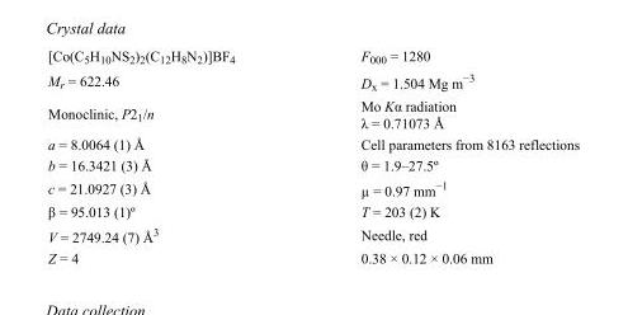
<table><tbody><tr><td>[Co(C<sub>5</sub>H<sub>10</sub>NS<sub>2</sub>)<sub>2</sub>(C<sub>12</sub>H<sub>8</sub>N<sub>2</sub>)]BF<sub>4</sub></td><td>F<sub>000</sub> = 1280</td></tr><tr><td>M<sub>r</sub> = 622.46</td><td>D<sub>x</sub> = 1.504 Mg m<sup>−3</sup></td></tr><tr><td>Monoclinic, P2<sub>1</sub>/n</td><td>Mo Kα radiation λ = 0.71073 Å</td></tr><tr><td>a = 8.0064 (1) Å</td><td>Cell parameters from 8163 reflections</td></tr><tr><td>b = 16.3421 (3) Å</td><td>θ = 1.9–27.5º</td></tr><tr><td>c = 21.0927 (3) Å</td><td>µ = 0.97 mm<sup>−1</sup></td></tr><tr><td>β = 95.013 (1)º</td><td>T = 203 (2) K</td></tr><tr><td>V = 2749.24 (7) Å<sup>3</sup></td><td>Needle, red</td></tr><tr><td>Z = 4</td><td>0.38 × 0.12 × 0.06 mm</td></tr></tbody></table>